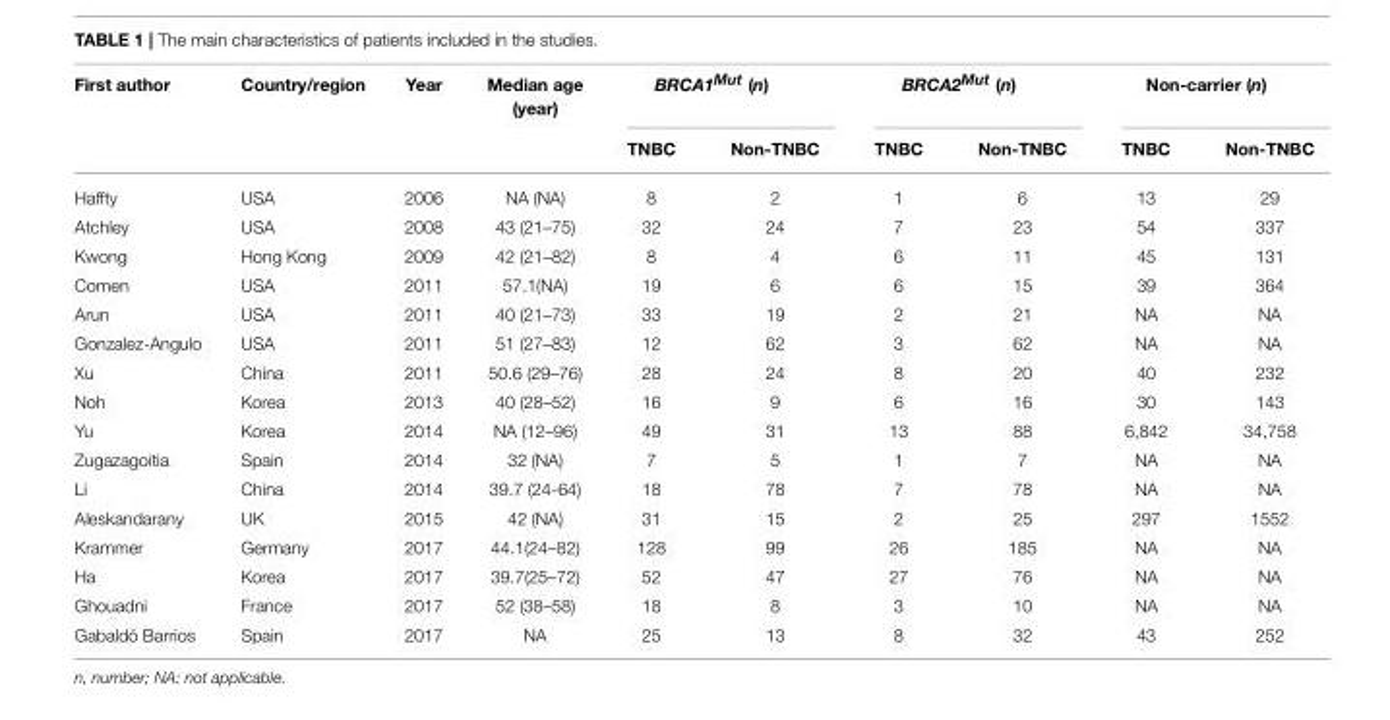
<table><thead><tr><td rowspan="2">First author</td><td rowspan="2">Country/region</td><td rowspan="2">Year</td><td rowspan="2">Median age (year)</td><td colspan="2">BRCA1Mut (n)</td><td colspan="2">BRCA2Mut (n)</td><td colspan="2">Non-carrier (n)</td></tr><tr><td>TNBC</td><td>Non-TNBC</td><td>TNBC</td><td>Non-TNBC</td><td>TNBC</td><td>Non-TNBC</td></tr></thead><tbody><tr><td>Haffty</td><td>USA</td><td>2006</td><td>NA (NA)</td><td>8</td><td>2</td><td>1</td><td>6</td><td>13</td><td>29</td></tr><tr><td>Atchley</td><td>USA</td><td>2008</td><td>43 (21–75)</td><td>32</td><td>24</td><td>7</td><td>23</td><td>54</td><td>337</td></tr><tr><td>Kwong</td><td>Hong Kong</td><td>2009</td><td>42 (21–82)</td><td>8</td><td>4</td><td>6</td><td>11</td><td>45</td><td>131</td></tr><tr><td>Comen</td><td>USA</td><td>2011</td><td>57.1(NA)</td><td>19</td><td>6</td><td>6</td><td>15</td><td>39</td><td>364</td></tr><tr><td>Arun</td><td>USA</td><td>2011</td><td>40 (21–73)</td><td>33</td><td>19</td><td>2</td><td>21</td><td>NA</td><td>NA</td></tr><tr><td>Gonzalez-Angulo</td><td>USA</td><td>2011</td><td>51 (27–83)</td><td>12</td><td>62</td><td>3</td><td>62</td><td>NA</td><td>NA</td></tr><tr><td>Xu</td><td>China</td><td>2011</td><td>50.6 (29–76)</td><td>28</td><td>24</td><td>8</td><td>20</td><td>40</td><td>232</td></tr><tr><td>Noh</td><td>Korea</td><td>2013</td><td>40 (28–52)</td><td>16</td><td>9</td><td>6</td><td>16</td><td>30</td><td>143</td></tr><tr><td>Yu</td><td>Korea</td><td>2014</td><td>NA (12–96)</td><td>49</td><td>31</td><td>13</td><td>88</td><td>6,842</td><td>34,758</td></tr><tr><td>Zugazagoitia</td><td>Spain</td><td>2014</td><td>32 (NA)</td><td>7</td><td>5</td><td>1</td><td>7</td><td>NA</td><td>NA</td></tr><tr><td>Li</td><td>China</td><td>2014</td><td>39.7 (24-64)</td><td>18</td><td>78</td><td>7</td><td>78</td><td>NA</td><td>NA</td></tr><tr><td>Aleskandarany</td><td>UK</td><td>2015</td><td>42 (NA)</td><td>31</td><td>15</td><td>2</td><td>25</td><td>297</td><td>1552</td></tr><tr><td>Krammer</td><td>Germany</td><td>2017</td><td>44.1(24–82)</td><td>128</td><td>99</td><td>26</td><td>185</td><td>NA</td><td>NA</td></tr><tr><td>Ha</td><td>Korea</td><td>2017</td><td>39.7(25–72)</td><td>52</td><td>47</td><td>27</td><td>76</td><td>NA</td><td>NA</td></tr><tr><td>Ghouadni</td><td>France</td><td>2017</td><td>52 (38–58)</td><td>18</td><td>8</td><td>3</td><td>10</td><td>NA</td><td>NA</td></tr><tr><td>Gabaldó Barrios</td><td>Spain</td><td>2017</td><td>NA</td><td>25</td><td>13</td><td>8</td><td>32</td><td>43</td><td>252</td></tr></tbody></table>